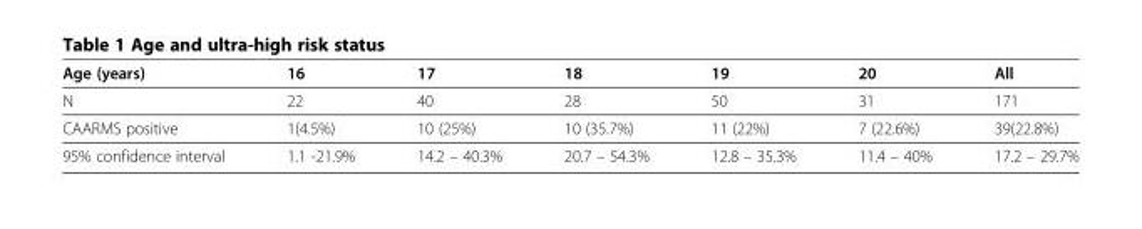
<table><thead><tr><td>Age (years)</td><td>16</td><td>17</td><td>18</td><td>19</td><td>20</td><td>All</td></tr></thead><tbody><tr><td>N</td><td>22</td><td>40</td><td>28</td><td>50</td><td>31</td><td>171</td></tr><tr><td>CAARMS positive</td><td>1(4.5%)</td><td>10 (25%)</td><td>10 (35.7%)</td><td>11 (22%)</td><td>7 (22.6%)</td><td>39(22.8%)</td></tr><tr><td>95% confidence interval</td><td>1.1 -21.9%</td><td>14.2 – 40.3%</td><td>20.7 – 54.3%</td><td>12.8 – 35.3%</td><td>11.4 – 40%</td><td>17.2 – 29.7%</td></tr></tbody></table>